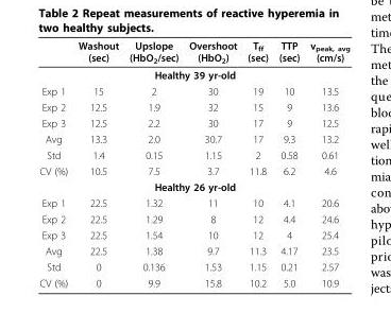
<table><thead><tr><td></td><td>Washout (sec)</td><td>Upslope (HbO<sub>2</sub>/sec)</td><td>Overshoot (HbO<sub>2</sub>)</td><td>T<sub>ff</sub> (sec)</td><td>TTP (sec)</td><td>v<sub>peak, avg</sub> (cm/s)</td></tr></thead><tbody><tr><td colspan="7">Healthy 39 yr-old</td></tr><tr><td>Exp 1</td><td>15</td><td>2</td><td>30</td><td>19</td><td>10</td><td>13.5</td></tr><tr><td>Exp 2</td><td>12.5</td><td>1.9</td><td>32</td><td>15</td><td>9</td><td>13.6</td></tr><tr><td>Exp 3</td><td>12.5</td><td>2.2</td><td>30</td><td>17</td><td>9</td><td>12.5</td></tr><tr><td>Avg</td><td>13.3</td><td>2.0</td><td>30.7</td><td>17</td><td>9.3</td><td>13.2</td></tr><tr><td>Std</td><td>1.4</td><td>0.15</td><td>1.15</td><td>2</td><td>0.58</td><td>0.61</td></tr><tr><td>CV (%)</td><td>10.5</td><td>7.5</td><td>3.7</td><td>11.8</td><td>6.2</td><td>4.6</td></tr><tr><td colspan="7">Healthy 26 yr-old</td></tr><tr><td>Exp 1</td><td>22.5</td><td>1.32</td><td>11</td><td>10</td><td>4.1</td><td>20.6</td></tr><tr><td>Exp 2</td><td>22.5</td><td>1.29</td><td>8</td><td>12</td><td>4.4</td><td>24.6</td></tr><tr><td>Exp 3</td><td>22.5</td><td>1.54</td><td>10</td><td>12</td><td>4</td><td>25.4</td></tr><tr><td>Avg</td><td>22.5</td><td>1.38</td><td>9.7</td><td>11.3</td><td>4.17</td><td>23.5</td></tr><tr><td>Std</td><td>0</td><td>0.136</td><td>1.53</td><td>1.15</td><td>0.21</td><td>2.57</td></tr><tr><td>CV (%)</td><td>0</td><td>9.9</td><td>15.8</td><td>10.2</td><td>5.0</td><td>10.9</td></tr></tbody></table>